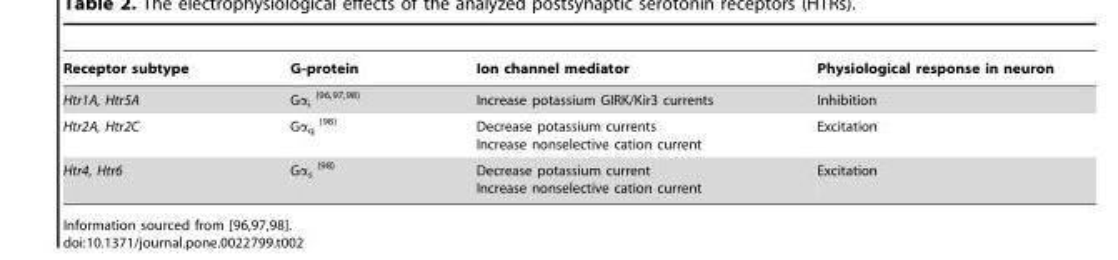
<table><thead><tr><td>Receptor subtype</td><td>G-protein</td><td>Ion channel mediator</td><td>Physiological response in neuron</td></tr></thead><tbody><tr><td>Htr1A, Htr5A</td><td>Gα<sub>i</sub> <sup>(96,97,98)</sup></td><td>Increase potassium GIRK/Kir3 currents</td><td>Inhibition</td></tr><tr><td>Htr2A, Htr2C</td><td>Gα<sub>q</sub> <sup>(98)</sup></td><td>Decrease potassium currents Increase nonselective cation current</td><td>Excitation</td></tr><tr><td>Htr4, Htr6</td><td>Gα<sub>s</sub> <sup>(98)</sup></td><td>Decrease potassium current Increase nonselective cation current</td><td>Excitation</td></tr></tbody></table>